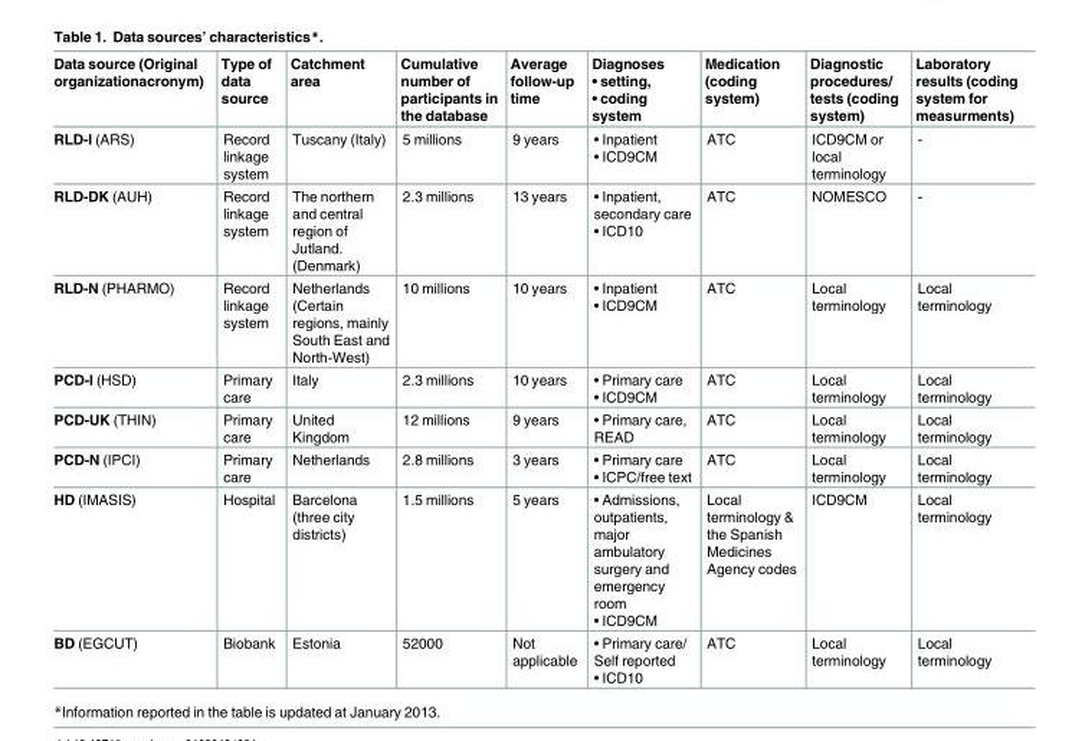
<table><thead><tr><td>Data source (Original organizationacronym)</td><td>Type of data source</td><td>Catchment area</td><td>Cumulative number of participants in the database</td><td>Average follow-up time</td><td>Diagnoses • setting, • coding system</td><td>Medication (coding system)</td><td>Diagnostic procedures/ tests (coding system)</td><td>Laboratory results (coding system for measurments)</td></tr></thead><tbody><tr><td>RLD-I (ARS)</td><td>Record linkage system</td><td>Tuscany (Italy)</td><td>5 millions</td><td>9 years</td><td>• Inpatient • ICD9CM</td><td>ATC</td><td>ICD9CM or local terminology</td><td>-</td></tr><tr><td>RLD-DK (AUH)</td><td>Record linkage system</td><td>The northern and central region of Jutland. (Denmark)</td><td>2.3 millions</td><td>13 years</td><td>• Inpatient, secondary care • ICD10</td><td>ATC</td><td>NOMESCO</td><td>-</td></tr><tr><td>RLD-N (PHARMO)</td><td>Record linkage system</td><td>Netherlands (Certain regions, mainly South East and North-West)</td><td>10 millions</td><td>10 years</td><td>• Inpatient • ICD9CM</td><td>ATC</td><td>Local terminology</td><td>Local terminology</td></tr><tr><td>PCD-I (HSD)</td><td>Primary care</td><td>Italy</td><td>2.3 millions</td><td>10 years</td><td>• Primary care • ICD9CM</td><td>ATC</td><td>Local terminology</td><td>Local terminology</td></tr><tr><td>PCD-UK (THIN)</td><td>Primary care</td><td>United Kingdom</td><td>12 millions</td><td>9 years</td><td>• Primary care, READ</td><td>ATC</td><td>Local terminology</td><td>Local terminology</td></tr><tr><td>PCD-N (IPCI)</td><td>Primary care</td><td>Netherlands</td><td>2.8 millions</td><td>3 years</td><td>• Primary care • ICPC/free text</td><td>ATC</td><td>Local terminology</td><td>Local terminology</td></tr><tr><td>HD (IMASIS)</td><td>Hospital</td><td>Barcelona (three city districts)</td><td>1.5 millions</td><td>5 years</td><td>• Admissions, outpatients, major ambulatory surgery and emergency room • ICD9CM</td><td>Local terminology &amp; the Spanish Medicines Agency codes</td><td>ICD9CM</td><td>Local terminology</td></tr><tr><td>BD (EGCUT)</td><td>Biobank</td><td>Estonia</td><td>52000</td><td>Not applicable</td><td>• Primary care/ Self reported • ICD10</td><td>ATC</td><td>Local terminology</td><td>Local terminology</td></tr></tbody></table>